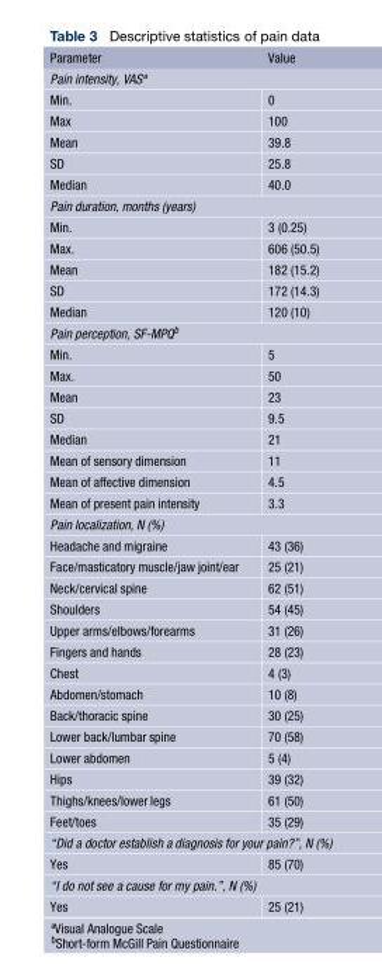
<table><thead><tr><td>Parameter</td><td>Value</td></tr></thead><tbody><tr><td colspan="2">Pain intensity, VASª</td></tr><tr><td>Min.</td><td>0</td></tr><tr><td>Max</td><td>100</td></tr><tr><td>Mean</td><td>39.8</td></tr><tr><td>SD</td><td>25.8</td></tr><tr><td>Median</td><td>40.0</td></tr><tr><td colspan="2">Pain duration, months (years)</td></tr><tr><td>Min.</td><td>3 (0.25)</td></tr><tr><td>Max.</td><td>606 (50.5)</td></tr><tr><td>Mean</td><td>182 (15.2)</td></tr><tr><td>SD</td><td>172 (14.3)</td></tr><tr><td>Median</td><td>120 (10)</td></tr><tr><td colspan="2">Pain perception, SF-MPQ<sup>b</sup></td></tr><tr><td>Min.</td><td>5</td></tr><tr><td>Max.</td><td>50</td></tr><tr><td>Mean</td><td>23</td></tr><tr><td>SD</td><td>9.5</td></tr><tr><td>Median</td><td>21</td></tr><tr><td>Mean of sensory dimension</td><td>11</td></tr><tr><td>Mean of affective dimension</td><td>4.5</td></tr><tr><td>Mean of present pain intensity</td><td>3.3</td></tr><tr><td colspan="2">Pain localization, N (%)</td></tr><tr><td>Headache and migraine</td><td>43 (36)</td></tr><tr><td>Face/masticatory muscle/jaw joint/ear</td><td>25 (21)</td></tr><tr><td>Neck/cervical spine</td><td>62 (51)</td></tr><tr><td>Shoulders</td><td>54 (45)</td></tr><tr><td>Upper arms/elbows/forearms</td><td>31 (26)</td></tr><tr><td>Fingers and hands</td><td>28 (23)</td></tr><tr><td>Chest</td><td>4 (3)</td></tr><tr><td>Abdomen/stomach</td><td>10 (8)</td></tr><tr><td>Back/thoracic spine</td><td>30 (25)</td></tr><tr><td>Lower back/lumbar spine</td><td>70 (58)</td></tr><tr><td>Lower abdomen</td><td>5 (4)</td></tr><tr><td>Hips</td><td>39 (32)</td></tr><tr><td>Thighs/knees/lower legs</td><td>61 (50)</td></tr><tr><td>Feet/toes</td><td>35 (29)</td></tr><tr><td colspan="2">“Did a doctor establish a diagnosis for your pain?”, N (%)</td></tr><tr><td>Yes</td><td>85 (70)</td></tr><tr><td colspan="2">“I do not see a cause for my pain.”, N (%)</td></tr><tr><td>Yes</td><td>25 (21)</td></tr></tbody></table>